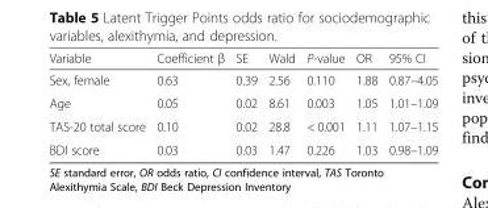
<table><thead><tr><td>Variable</td><td>Coefficient β</td><td>SE</td><td>Wald</td><td>P-value</td><td>OR</td><td>95% CI</td></tr></thead><tbody><tr><td>Sex, female</td><td>0.63</td><td>0.39</td><td>2.56</td><td>0.110</td><td>1.88</td><td>0.87–4.05</td></tr><tr><td>Age</td><td>0.05</td><td>0.02</td><td>8.61</td><td>0.003</td><td>1.05</td><td>1.01–1.09</td></tr><tr><td>TAS-20 total score</td><td>0.10</td><td>0.02</td><td>28.8</td><td>&lt; 0.001</td><td>1.11</td><td>1.07–1.15</td></tr><tr><td>BDI score</td><td>0.03</td><td>0.03</td><td>1.47</td><td>0.226</td><td>1.03</td><td>0.98–1.09</td></tr></tbody></table>